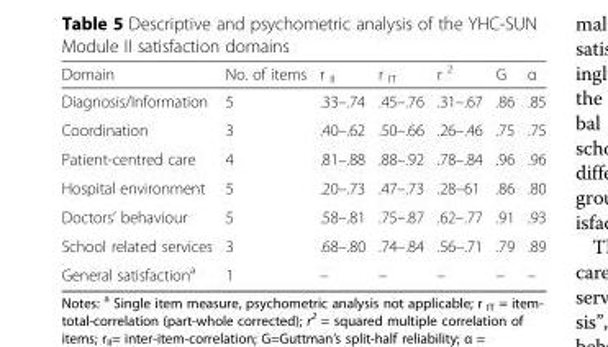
<table><thead><tr><td>Domain</td><td>No. of items</td><td>r <sub>II</sub></td><td>r <sub>IT</sub></td><td>r <sup>2</sup></td><td>G</td><td>α</td></tr></thead><tbody><tr><td>Diagnosis/Information</td><td>5</td><td>.33–.74</td><td>.45–.76</td><td>.31–.67</td><td>.86</td><td>.85</td></tr><tr><td>Coordination</td><td>3</td><td>.40–.62</td><td>.50–.66</td><td>.26–.46</td><td>.75</td><td>.75</td></tr><tr><td>Patient-centred care</td><td>4</td><td>.81–.88</td><td>.88–.92</td><td>.78–.84</td><td>.96</td><td>.96</td></tr><tr><td>Hospital environment</td><td>5</td><td>.20–.73</td><td>.47–.73</td><td>.28–61</td><td>.86</td><td>.80</td></tr><tr><td>Doctors’ behaviour</td><td>5</td><td>.58–.81</td><td>.75–.87</td><td>.62–.77</td><td>.91</td><td>.93</td></tr><tr><td>School related services</td><td>3</td><td>.68–.80</td><td>.74–.84</td><td>.56–.71</td><td>.79</td><td>.89</td></tr><tr><td>General satisfaction<sup>a</sup></td><td>1</td><td>–</td><td>–</td><td>–</td><td>–</td><td>–</td></tr></tbody></table>